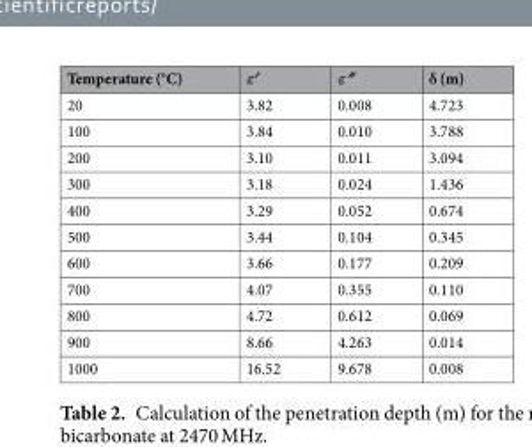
<table><thead><tr><td>Temperature (°C)</td><td>ε′</td><td>ε″</td><td>δ (m)</td></tr></thead><tbody><tr><td>20</td><td>3.82</td><td>0.008</td><td>4.723</td></tr><tr><td>100</td><td>3.84</td><td>0.010</td><td>3.788</td></tr><tr><td>200</td><td>3.10</td><td>0.011</td><td>3.094</td></tr><tr><td>300</td><td>3.18</td><td>0.024</td><td>1.436</td></tr><tr><td>400</td><td>3.29</td><td>0.052</td><td>0.674</td></tr><tr><td>500</td><td>3.44</td><td>0.104</td><td>0.345</td></tr><tr><td>600</td><td>3.66</td><td>0.177</td><td>0.209</td></tr><tr><td>700</td><td>4.07</td><td>0.355</td><td>0.110</td></tr><tr><td>800</td><td>4.72</td><td>0.612</td><td>0.069</td></tr><tr><td>900</td><td>8.66</td><td>4.263</td><td>0.014</td></tr><tr><td>1000</td><td>16.52</td><td>9.678</td><td>0.008</td></tr></tbody></table>